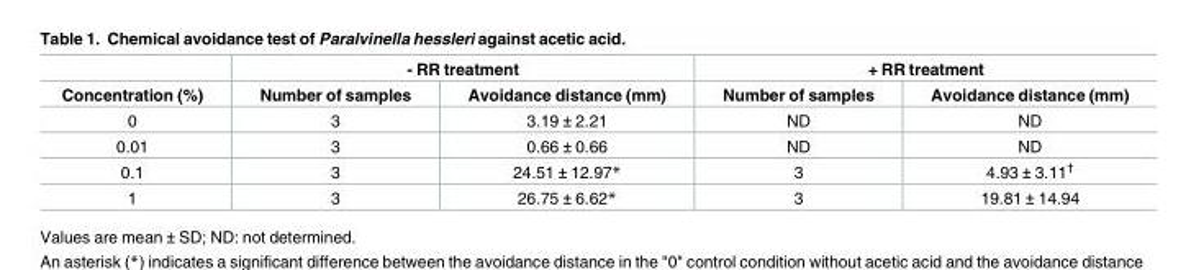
<table><thead><tr><td rowspan="2">Concentration (%)</td><td colspan="2">- RR treatment</td><td colspan="2">+ RR treatment</td></tr><tr><td>Number of samples</td><td>Avoidance distance (mm)</td><td>Number of samples</td><td>Avoidance distance (mm)</td></tr></thead><tbody><tr><td>0</td><td>3</td><td>3.19 ± 2.21</td><td>ND</td><td>ND</td></tr><tr><td>0.01</td><td>3</td><td>0.66 ± 0.66</td><td>ND</td><td>ND</td></tr><tr><td>0.1</td><td>3</td><td>24.51 ± 12.97*</td><td>3</td><td>4.93 ± 3.11<sup>†</sup></td></tr><tr><td>1</td><td>3</td><td>26.75 ± 6.62*</td><td>3</td><td>19.81 ± 14.94</td></tr></tbody></table>